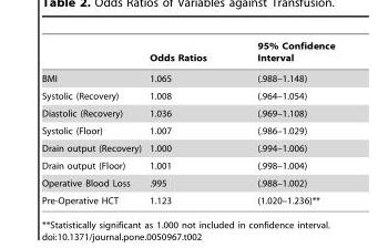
<table><thead><tr><td></td><td>Odds Ratios</td><td>95% Confidence Interval</td></tr></thead><tbody><tr><td>BMI</td><td>1.065</td><td>(.988–1.148)</td></tr><tr><td>Systolic (Recovery)</td><td>1.008</td><td>(.964–1.054)</td></tr><tr><td>Diastolic (Recovery)</td><td>1.036</td><td>(.969–1.108)</td></tr><tr><td>Systolic (Floor)</td><td>1.007</td><td>(.986–1.029)</td></tr><tr><td>Drain output (Recovery)</td><td>1.000</td><td>(.994–1.006)</td></tr><tr><td>Drain output (Floor)</td><td>1.001</td><td>(.998–1.004)</td></tr><tr><td>Operative Blood Loss</td><td>.995</td><td>(.988–1.002)</td></tr><tr><td>Pre-Operative HCT</td><td>1.123</td><td>(1.020–1.236)**</td></tr></tbody></table>